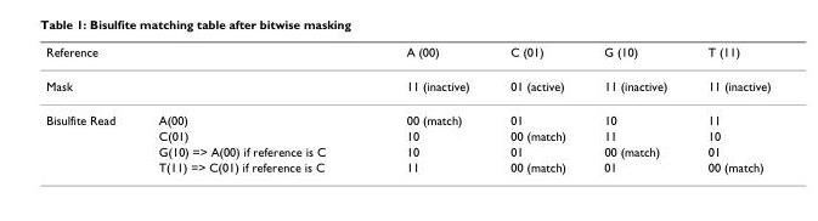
<table><thead><tr><td>Reference</td><td></td><td>A (00)</td><td>C (01)</td><td>G (10)</td><td>T (11)</td></tr></thead><tbody><tr><td>Mask</td><td></td><td>11 (inactive)</td><td>01 (active)</td><td>11 (inactive)</td><td>11 (inactive)</td></tr><tr><td rowspan="4">Bisulfite Read</td><td>A(00)</td><td>00 (match)</td><td>01</td><td>10</td><td>11</td></tr><tr><td>C(01)</td><td>10</td><td>00 (match)</td><td>11</td><td>10</td></tr><tr><td>G(10) =&gt; A(00) if reference is C</td><td>10</td><td>01</td><td>00 (match)</td><td>01</td></tr><tr><td>T(11) =&gt; C(01) if reference is C</td><td>11</td><td>00 (match)</td><td>01</td><td>00 (match)</td></tr></tbody></table>